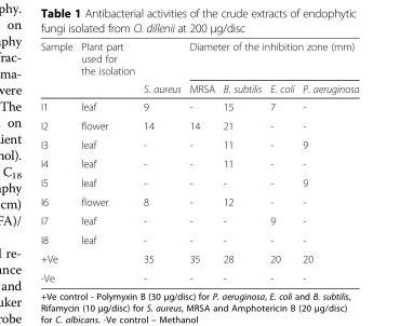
<table><thead><tr><td rowspan="2">Sample</td><td rowspan="2">Plant part used for the isolation</td><td rowspan="2">S. aureus</td><td colspan="4">Diameter of the inhibition zone (mm)</td></tr><tr><td>MRSA</td><td>B. subtilis</td><td>E. coli</td><td>P. aeruginosa</td></tr></thead><tbody><tr><td>I1</td><td>leaf</td><td>9</td><td>-</td><td>15</td><td>7</td><td>-</td></tr><tr><td>I2</td><td>flower</td><td>14</td><td>14</td><td>21</td><td>-</td><td>-</td></tr><tr><td>I3</td><td>leaf</td><td>-</td><td>-</td><td>11</td><td>-</td><td>9</td></tr><tr><td>I4</td><td>leaf</td><td>-</td><td>-</td><td>11</td><td>-</td><td>-</td></tr><tr><td>I5</td><td>leaf</td><td>-</td><td>-</td><td>-</td><td>-</td><td>9</td></tr><tr><td>I6</td><td>flower</td><td>8</td><td>-</td><td>12</td><td>-</td><td>-</td></tr><tr><td>I7</td><td>leaf</td><td>-</td><td>-</td><td>-</td><td>9</td><td>-</td></tr><tr><td>I8</td><td>leaf</td><td>-</td><td>-</td><td>-</td><td>-</td><td>-</td></tr><tr><td>+Ve</td><td></td><td>35</td><td>35</td><td>28</td><td>20</td><td>20</td></tr><tr><td>-Ve</td><td></td><td>-</td><td>-</td><td>-</td><td>-</td><td>-</td></tr></tbody></table>